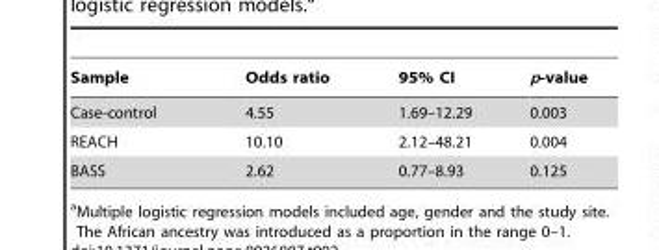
<table><thead><tr><td>Sample</td><td>Odds ratio</td><td>95% CI</td><td>p-value</td></tr></thead><tbody><tr><td>Case-control</td><td>4.55</td><td>1.69–12.29</td><td>0.003</td></tr><tr><td>REACH</td><td>10.10</td><td>2.12–48.21</td><td>0.004</td></tr><tr><td>BASS</td><td>2.62</td><td>0.77–8.93</td><td>0.125</td></tr></tbody></table>